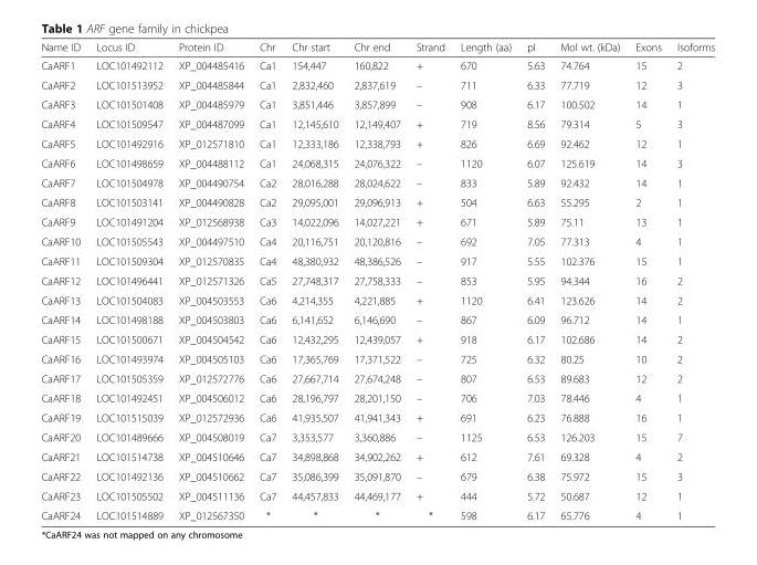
<table><thead><tr><td>Name ID</td><td>Locus ID</td><td>Protein ID</td><td>Chr</td><td>Chr start</td><td>Chr end</td><td>Strand</td><td>Length (aa)</td><td>pI</td><td>Mol wt. (kDa)</td><td>Exons</td><td>Isoforms</td></tr></thead><tbody><tr><td>CaARF1</td><td>LOC101492112</td><td>XP_004485416</td><td>Ca1</td><td>154,447</td><td>160,822</td><td>+</td><td>670</td><td>5.63</td><td>74.764</td><td>15</td><td>2</td></tr><tr><td>CaARF2</td><td>LOC101513952</td><td>XP_004485844</td><td>Ca1</td><td>2,832,460</td><td>2,837,619</td><td>–</td><td>711</td><td>6.33</td><td>77.719</td><td>12</td><td>3</td></tr><tr><td>CaARF3</td><td>LOC101501408</td><td>XP_004485979</td><td>Ca1</td><td>3,851,446</td><td>3,857,899</td><td>–</td><td>908</td><td>6.17</td><td>100.502</td><td>14</td><td>1</td></tr><tr><td>CaARF4</td><td>LOC101509547</td><td>XP_004487099</td><td>Ca1</td><td>12,145,610</td><td>12,149,407</td><td>+</td><td>719</td><td>8.56</td><td>79.314</td><td>5</td><td>3</td></tr><tr><td>CaARF5</td><td>LOC101492916</td><td>XP_012571810</td><td>Ca1</td><td>12,333,186</td><td>12,338,793</td><td>+</td><td>826</td><td>6.69</td><td>92.462</td><td>12</td><td>1</td></tr><tr><td>CaARF6</td><td>LOC101498659</td><td>XP_004488112</td><td>Ca1</td><td>24,068,315</td><td>24,076,322</td><td>–</td><td>1120</td><td>6.07</td><td>125.619</td><td>14</td><td>3</td></tr><tr><td>CaARF7</td><td>LOC101504978</td><td>XP_004490754</td><td>Ca2</td><td>28,016,288</td><td>28,024,622</td><td>–</td><td>833</td><td>5.89</td><td>92.432</td><td>14</td><td>1</td></tr><tr><td>CaARF8</td><td>LOC101503141</td><td>XP_004490828</td><td>Ca2</td><td>29,095,001</td><td>29,096,913</td><td>+</td><td>504</td><td>6.63</td><td>55.295</td><td>2</td><td>1</td></tr><tr><td>CaARF9</td><td>LOC101491204</td><td>XP_012568938</td><td>Ca3</td><td>14,022,096</td><td>14,027,221</td><td>+</td><td>671</td><td>5.89</td><td>75.11</td><td>13</td><td>1</td></tr><tr><td>CaARF10</td><td>LOC101505543</td><td>XP_004497510</td><td>Ca4</td><td>20,116,751</td><td>20,120,816</td><td>–</td><td>692</td><td>7.05</td><td>77.313</td><td>4</td><td>1</td></tr><tr><td>CaARF11</td><td>LOC101509304</td><td>XP_012570835</td><td>Ca4</td><td>48,380,932</td><td>48,386,526</td><td>–</td><td>917</td><td>5.55</td><td>102.376</td><td>15</td><td>1</td></tr><tr><td>CaARF12</td><td>LOC101496441</td><td>XP_012571326</td><td>Ca5</td><td>27,748,317</td><td>27,758,333</td><td>–</td><td>853</td><td>5.95</td><td>94.344</td><td>16</td><td>2</td></tr><tr><td>CaARF13</td><td>LOC101504083</td><td>XP_004503553</td><td>Ca6</td><td>4,214,355</td><td>4,221,885</td><td>+</td><td>1120</td><td>6.41</td><td>123.626</td><td>14</td><td>2</td></tr><tr><td>CaARF14</td><td>LOC101498188</td><td>XP_004503803</td><td>Ca6</td><td>6,141,652</td><td>6,146,690</td><td>–</td><td>867</td><td>6.09</td><td>96.712</td><td>14</td><td>1</td></tr><tr><td>CaARF15</td><td>LOC101500671</td><td>XP_004504542</td><td>Ca6</td><td>12,432,295</td><td>12,439,057</td><td>+</td><td>918</td><td>6.17</td><td>102.686</td><td>14</td><td>2</td></tr><tr><td>CaARF16</td><td>LOC101493974</td><td>XP_004505103</td><td>Ca6</td><td>17,365,769</td><td>17,371,522</td><td>–</td><td>725</td><td>6.32</td><td>80.25</td><td>10</td><td>2</td></tr><tr><td>CaARF17</td><td>LOC101505359</td><td>XP_012572776</td><td>Ca6</td><td>27,667,714</td><td>27,674,248</td><td>–</td><td>807</td><td>6.53</td><td>89.683</td><td>12</td><td>2</td></tr><tr><td>CaARF18</td><td>LOC101492451</td><td>XP_004506012</td><td>Ca6</td><td>28,196,797</td><td>28,201,150</td><td>–</td><td>706</td><td>7.03</td><td>78.446</td><td>4</td><td>1</td></tr><tr><td>CaARF19</td><td>LOC101515039</td><td>XP_012572936</td><td>Ca6</td><td>41,935,507</td><td>41,941,343</td><td>+</td><td>691</td><td>6.23</td><td>76.888</td><td>16</td><td>1</td></tr><tr><td>CaARF20</td><td>LOC101489666</td><td>XP_004508019</td><td>Ca7</td><td>3,353,577</td><td>3,360,886</td><td>–</td><td>1125</td><td>6.53</td><td>126.203</td><td>15</td><td>7</td></tr><tr><td>CaARF21</td><td>LOC101514738</td><td>XP_004510646</td><td>Ca7</td><td>34,898,868</td><td>34,902,262</td><td>+</td><td>612</td><td>7.61</td><td>69.328</td><td>4</td><td>2</td></tr><tr><td>CaARF22</td><td>LOC101492136</td><td>XP_004510662</td><td>Ca7</td><td>35,086,399</td><td>35,091,870</td><td>–</td><td>679</td><td>6.38</td><td>75.972</td><td>15</td><td>3</td></tr><tr><td>CaARF23</td><td>LOC101505502</td><td>XP_004511136</td><td>Ca7</td><td>44,457,833</td><td>44,469,177</td><td>+</td><td>444</td><td>5.72</td><td>50.687</td><td>12</td><td>1</td></tr><tr><td>CaARF24</td><td>LOC101514889</td><td>XP_012567350</td><td>*</td><td>*</td><td>*</td><td>*</td><td>598</td><td>6.17</td><td>65.776</td><td>4</td><td>1</td></tr></tbody></table>